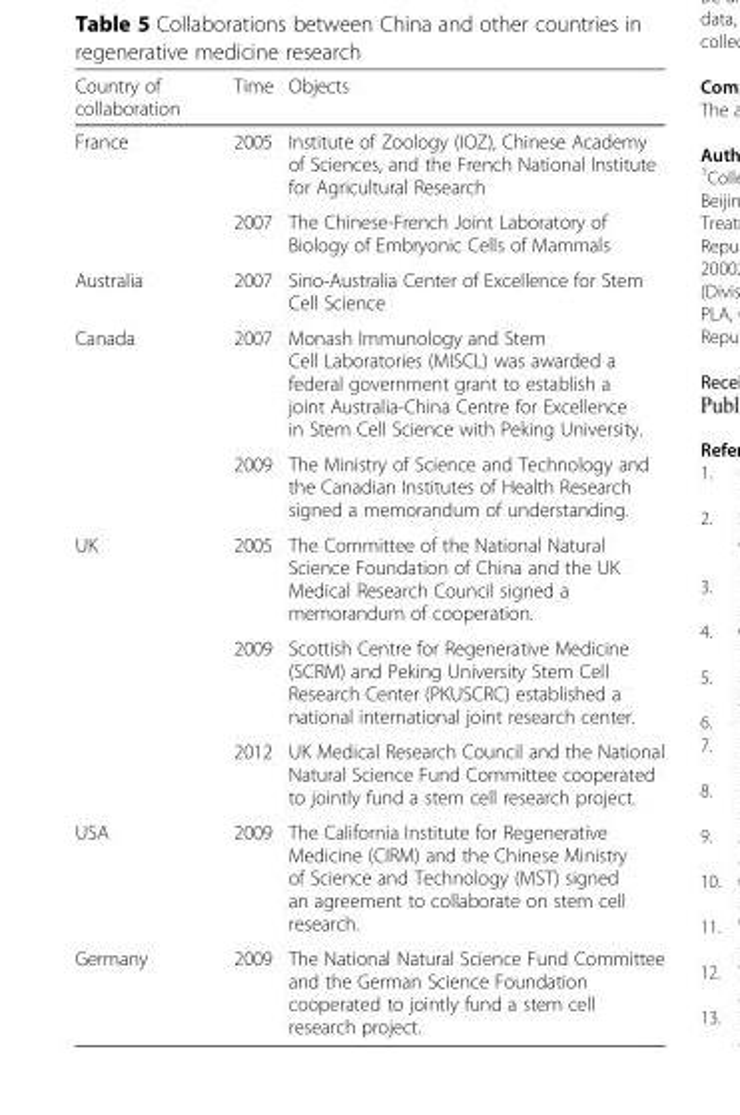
<table><thead><tr><td>Country of collaboration</td><td>Time</td><td>Objects</td></tr></thead><tbody><tr><td rowspan="2">France</td><td>2005</td><td>Institute of Zoology (IOZ), Chinese Academy of Sciences, and the French National Institute for Agricultural Research</td></tr><tr><td>2007</td><td>The Chinese-French Joint Laboratory of Biology of Embryonic Cells of Mammals</td></tr><tr><td>Australia</td><td>2007</td><td>Sino-Australia Center of Excellence for Stem Cell Science</td></tr><tr><td rowspan="2">Canada</td><td>2007</td><td>Monash Immunology and Stem Cell Laboratories (MISCL) was awarded a federal government grant to establish a joint Australia-China Centre for Excellence in Stem Cell Science with Peking University.</td></tr><tr><td>2009</td><td>The Ministry of Science and Technology and the Canadian Institutes of Health Research signed a memorandum of understanding.</td></tr><tr><td rowspan="3">UK</td><td>2005</td><td>The Committee of the National Natural Science Foundation of China and the UK Medical Research Council signed a memorandum of cooperation.</td></tr><tr><td>2009</td><td>Scottish Centre for Regenerative Medicine (SCRM) and Peking University Stem Cell Research Center (PKUSCRC) established a national international joint research center.</td></tr><tr><td>2012</td><td>UK Medical Research Council and the National Natural Science Fund Committee cooperated to jointly fund a stem cell research project.</td></tr><tr><td>USA</td><td>2009</td><td>The California Institute for Regenerative Medicine (CIRM) and the Chinese Ministry of Science and Technology (MST) signed an agreement to collaborate on stem cell research.</td></tr><tr><td>Germany</td><td>2009</td><td>The National Natural Science Fund Committee and the German Science Foundation cooperated to jointly fund a stem cell research project.</td></tr></tbody></table>